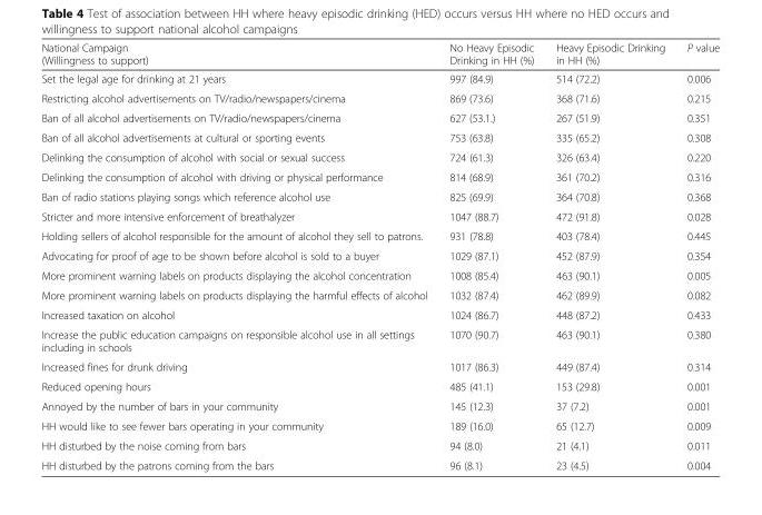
<table><thead><tr><td>National Campaign (Willingness to support)</td><td>No Heavy Episodic Drinking in HH (%)</td><td>Heavy Episodic Drinking in HH (%)</td><td>P value</td></tr></thead><tbody><tr><td>Set the legal age for drinking at 21 years</td><td>997 (84.9)</td><td>514 (72.2)</td><td>0.006</td></tr><tr><td>Restricting alcohol advertisements on TV/radio/newspapers/cinema</td><td>869 (73.6)</td><td>368 (71.6)</td><td>0.215</td></tr><tr><td>Ban of all alcohol advertisements on TV/radio/newspapers/cinema</td><td>627 (53.1.)</td><td>267 (51.9)</td><td>0.351</td></tr><tr><td>Ban of all alcohol advertisements at cultural or sporting events</td><td>753 (63.8)</td><td>335 (65.2)</td><td>0.308</td></tr><tr><td>Delinking the consumption of alcohol with social or sexual success</td><td>724 (61.3)</td><td>326 (63.4)</td><td>0.220</td></tr><tr><td>Delinking the consumption of alcohol with driving or physical performance</td><td>814 (68.9)</td><td>361 (70.2)</td><td>0.316</td></tr><tr><td>Ban of radio stations playing songs which reference alcohol use</td><td>825 (69.9)</td><td>364 (70.8)</td><td>0.368</td></tr><tr><td>Stricter and more intensive enforcement of breathalyzer</td><td>1047 (88.7)</td><td>472 (91.8)</td><td>0.028</td></tr><tr><td>Holding sellers of alcohol responsible for the amount of alcohol they sell to patrons.</td><td>931 (78.8)</td><td>403 (78.4)</td><td>0.445</td></tr><tr><td>Advocating for proof of age to be shown before alcohol is sold to a buyer</td><td>1029 (87.1)</td><td>452 (87.9)</td><td>0.354</td></tr><tr><td>More prominent warning labels on products displaying the alcohol concentration</td><td>1008 (85.4)</td><td>463 (90.1)</td><td>0.005</td></tr><tr><td>More prominent warning labels on products displaying the harmful effects of alcohol</td><td>1032 (87.4)</td><td>462 (89.9)</td><td>0.082</td></tr><tr><td>Increased taxation on alcohol</td><td>1024 (86.7)</td><td>448 (87.2)</td><td>0.433</td></tr><tr><td>Increase the public education campaigns on responsible alcohol use in all settings including in schools</td><td>1070 (90.7)</td><td>463 (90.1)</td><td>0.380</td></tr><tr><td>Increased fines for drunk driving</td><td>1017 (86.3)</td><td>449 (87.4)</td><td>0.314</td></tr><tr><td>Reduced opening hours</td><td>485 (41.1)</td><td>153 (29.8)</td><td>0.001</td></tr><tr><td>Annoyed by the number of bars in your community</td><td>145 (12.3)</td><td>37 (7.2)</td><td>0.001</td></tr><tr><td>HH would like to see fewer bars operating in your community</td><td>189 (16.0)</td><td>65 (12.7)</td><td>0.009</td></tr><tr><td>HH disturbed by the noise coming from bars</td><td>94 (8.0)</td><td>21 (4.1)</td><td>0.011</td></tr><tr><td>HH disturbed by the patrons coming from the bars</td><td>96 (8.1)</td><td>23 (4.5)</td><td>0.004</td></tr></tbody></table>